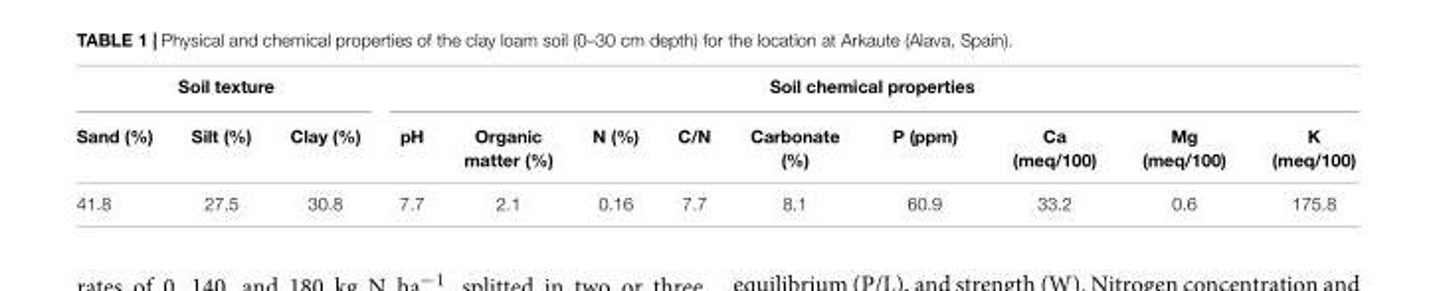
<table><thead><tr><td colspan="3">Soil texture</td><td colspan="9">Soil chemical properties</td></tr><tr><td>Sand (%)</td><td>Silt (%)</td><td>Clay (%)</td><td>pH</td><td>Organic matter (%)</td><td>N (%)</td><td>C/N</td><td>Carbonate (%)</td><td>P (ppm)</td><td>Ca (meq/100)</td><td>Mg (meq/100)</td><td>K (meq/100)</td></tr></thead><tbody><tr><td>41.8</td><td>27.5</td><td>30.8</td><td>7.7</td><td>2.1</td><td>0.16</td><td>7.7</td><td>8.1</td><td>60.9</td><td>33.2</td><td>0.6</td><td>175.8</td></tr></tbody></table>